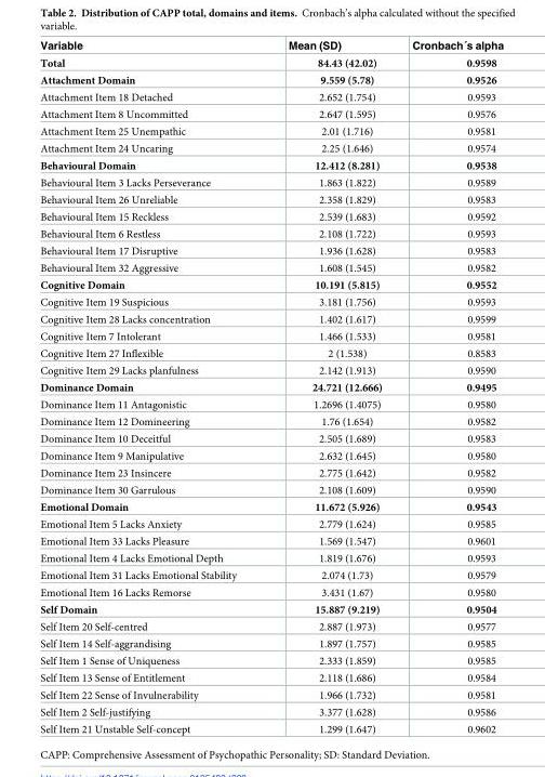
<table><thead><tr><td>Variable</td><td>Mean (SD)</td><td>Cronbach´s alpha</td></tr></thead><tbody><tr><td>Total</td><td>84.43 (42.02)</td><td>0.9598</td></tr><tr><td>Attachment Domain</td><td>9.559 (5.78)</td><td>0.9526</td></tr><tr><td>Attachment Item 18 Detached</td><td>2.652 (1.754)</td><td>0.9593</td></tr><tr><td>Attachment Item 8 Uncommitted</td><td>2.647 (1.595)</td><td>0.9576</td></tr><tr><td>Attachment Item 25 Unempathic</td><td>2.01 (1.716)</td><td>0.9581</td></tr><tr><td>Attachment Item 24 Uncaring</td><td>2.25 (1.646)</td><td>0.9574</td></tr><tr><td>Behavioural Domain</td><td>12.412 (8.281)</td><td>0.9538</td></tr><tr><td>Behavioural Item 3 Lacks Perseverance</td><td>1.863 (1.822)</td><td>0.9589</td></tr><tr><td>Behavioural Item 26 Unreliable</td><td>2.358 (1.829)</td><td>0.9583</td></tr><tr><td>Behavioural Item 15 Reckless</td><td>2.539 (1.683)</td><td>0.9592</td></tr><tr><td>Behavioural Item 6 Restless</td><td>2.108 (1.722)</td><td>0.9593</td></tr><tr><td>Behavioural Item 17 Disruptive</td><td>1.936 (1.628)</td><td>0.9583</td></tr><tr><td>Behavioural Item 32 Aggressive</td><td>1.608 (1.545)</td><td>0.9582</td></tr><tr><td>Cognitive Domain</td><td>10.191 (5.815)</td><td>0.9552</td></tr><tr><td>Cognitive Item 19 Suspicious</td><td>3.181 (1.756)</td><td>0.9593</td></tr><tr><td>Cognitive Item 28 Lacks concentration</td><td>1.402 (1.617)</td><td>0.9599</td></tr><tr><td>Cognitive Item 7 Intolerant</td><td>1.466 (1.533)</td><td>0.9581</td></tr><tr><td>Cognitive Item 27 Inflexible</td><td>2 (1.538)</td><td>0.8583</td></tr><tr><td>Cognitive Item 29 Lacks planfulness</td><td>2.142 (1.913)</td><td>0.9590</td></tr><tr><td>Dominance Domain</td><td>24.721 (12.666)</td><td>0.9495</td></tr><tr><td>Dominance Item 11 Antagonistic</td><td>1.2696 (1.4075)</td><td>0.9580</td></tr><tr><td>Dominance Item 12 Domineering</td><td>1.76 (1.654)</td><td>0.9582</td></tr><tr><td>Dominance Item 10 Deceitful</td><td>2.505 (1.689)</td><td>0.9583</td></tr><tr><td>Dominance Item 9 Manipulative</td><td>2.632 (1.645)</td><td>0.9580</td></tr><tr><td>Dominance Item 23 Insincere</td><td>2.775 (1.642)</td><td>0.9582</td></tr><tr><td>Dominance Item 30 Garrulous</td><td>2.108 (1.609)</td><td>0.9590</td></tr><tr><td>Emotional Domain</td><td>11.672 (5.926)</td><td>0.9543</td></tr><tr><td>Emotional Item 5 Lacks Anxiety</td><td>2.779 (1.624)</td><td>0.9585</td></tr><tr><td>Emotional Item 33 Lacks Pleasure</td><td>1.569 (1.547)</td><td>0.9601</td></tr><tr><td>Emotional Item 4 Lacks Emotional Depth</td><td>1.819 (1.676)</td><td>0.9593</td></tr><tr><td>Emotional Item 31 Lacks Emotional Stability</td><td>2.074 (1.73)</td><td>0.9579</td></tr><tr><td>Emotional Item 16 Lacks Remorse</td><td>3.431 (1.67)</td><td>0.9580</td></tr><tr><td>Self Domain</td><td>15.887 (9.219)</td><td>0.9504</td></tr><tr><td>Self Item 20 Self-centred</td><td>2.887 (1.973)</td><td>0.9577</td></tr><tr><td>Self Item 14 Self-aggrandising</td><td>1.897 (1.757)</td><td>0.9585</td></tr><tr><td>Self Item 1 Sense of Uniqueness</td><td>2.333 (1.859)</td><td>0.9585</td></tr><tr><td>Self Item 13 Sense of Entitlement</td><td>2.118 (1.686)</td><td>0.9584</td></tr><tr><td>Self Item 22 Sense of Invulnerability</td><td>1.966 (1.732)</td><td>0.9581</td></tr><tr><td>Self Item 2 Self-justifying</td><td>3.377 (1.628)</td><td>0.9586</td></tr><tr><td>Self Item 21 Unstable Self-concept</td><td>1.299 (1.647)</td><td>0.9602</td></tr></tbody></table>